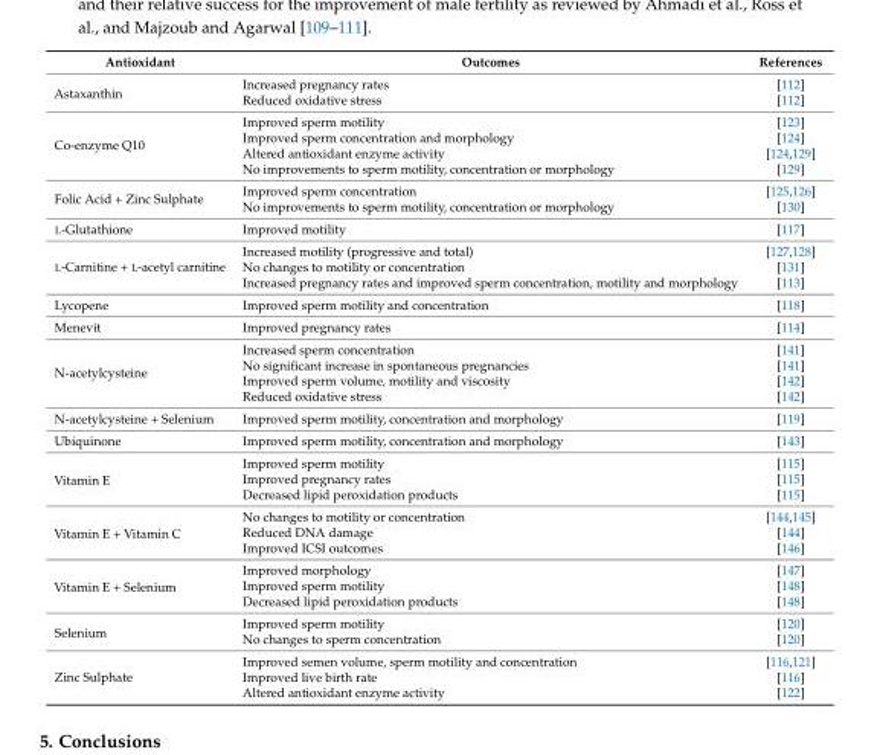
<table><thead><tr><td>Antioxidant</td><td>Outcomes</td><td>References</td></tr></thead><tbody><tr><td rowspan="2">Astaxanthin</td><td>Increased pregnancy rates</td><td>[112]</td></tr><tr><td>Reduced oxidative stress</td><td>[112]</td></tr><tr><td rowspan="4">Co-enzyme Q10</td><td>Improved sperm motility</td><td>[123]</td></tr><tr><td>Improved sperm concentration and morphology</td><td>[124]</td></tr><tr><td>Altered antioxidant enzyme activity</td><td>[124,129]</td></tr><tr><td>No improvements to sperm motility, concentration or morphology</td><td>[129]</td></tr><tr><td rowspan="2">Folic Acid + Zinc Sulphate</td><td>Improved sperm concentration</td><td>[125,126]</td></tr><tr><td>No improvements to sperm motility, concentration or morphology</td><td>[130]</td></tr><tr><td>L-Glutathione</td><td>Improved motility</td><td>[117]</td></tr><tr><td rowspan="3">L-Carnitine + L-acetyl carnitine</td><td>Increased motility (progressive and total)</td><td>[127,128]</td></tr><tr><td>No changes to motility or concentration</td><td>[131]</td></tr><tr><td>Increased pregnancy rates and improved sperm concentration, motility and morphology</td><td>[113]</td></tr><tr><td>Lycopene</td><td>Improved sperm motility and concentration</td><td>[118]</td></tr><tr><td>Menevit</td><td>Improved pregnancy rates</td><td>[114]</td></tr><tr><td rowspan="4">N-acetylcysteine</td><td>Increased sperm concentration</td><td>[141]</td></tr><tr><td>No significant increase in spontaneous pregnancies</td><td>[141]</td></tr><tr><td>Improved sperm volume, motility and viscosity</td><td>[142]</td></tr><tr><td>Reduced oxidative stress</td><td>[142]</td></tr><tr><td>N-acetylcysteine + Selenium</td><td>Improved sperm motility, concentration and morphology</td><td>[119]</td></tr><tr><td>Ubiquinone</td><td>Improved sperm motility, concentration and morphology</td><td>[143]</td></tr><tr><td rowspan="3">Vitamin E</td><td>Improved sperm motility</td><td>[115]</td></tr><tr><td>Improved pregnancy rates</td><td>[115]</td></tr><tr><td>Decreased lipid peroxidation products</td><td>[115]</td></tr><tr><td rowspan="3">Vitamin E + Vitamin C</td><td>No changes to motility or concentration</td><td>[144,145]</td></tr><tr><td>Reduced DNA damage</td><td>[144]</td></tr><tr><td>Improved ICSI outcomes</td><td>[146]</td></tr><tr><td rowspan="3">Vitamin E + Selenium</td><td>Improved morphology</td><td>[147]</td></tr><tr><td>Improved sperm motility</td><td>[148]</td></tr><tr><td>Decreased lipid peroxidation products</td><td>[148]</td></tr><tr><td rowspan="2">Selenium</td><td>Improved sperm motility</td><td>[120]</td></tr><tr><td>No changes to sperm concentration</td><td>[120]</td></tr><tr><td rowspan="3">Zinc Sulphate</td><td>Improved semen volume, sperm motility and concentration</td><td>[116,121]</td></tr><tr><td>Improved live birth rate</td><td>[116]</td></tr><tr><td>Altered antioxidant enzyme activity</td><td>[122]</td></tr></tbody></table>